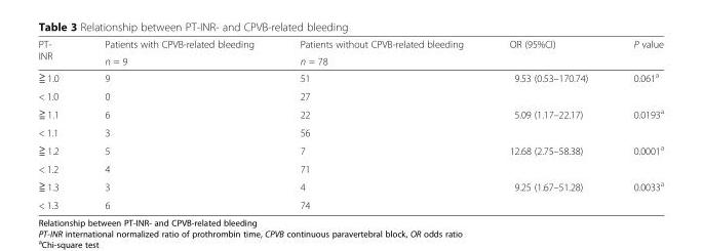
<table><thead><tr><td rowspan="2">PT- INR</td><td rowspan="2">Patients with CPVB-related bleeding n = 9</td><td rowspan="2">Patients without CPVB-related bleeding n = 78</td><td rowspan="2">OR (95%CI)</td><td rowspan="2">P value</td></tr><tr></tr></thead><tbody><tr><td>≧ 1.0</td><td>9</td><td>51</td><td rowspan="2">9.53 (0.53–170.74)</td><td rowspan="2">0.061<sup>a</sup></td></tr><tr><td>&lt; 1.0</td><td>0</td><td>27</td></tr><tr><td>≧ 1.1</td><td>6</td><td>22</td><td rowspan="2">5.09 (1.17–22.17)</td><td rowspan="2">0.0193<sup>a</sup></td></tr><tr><td>&lt; 1.1</td><td>3</td><td>56</td></tr><tr><td>≧ 1.2</td><td>5</td><td>7</td><td rowspan="2">12.68 (2.75–58.38)</td><td rowspan="2">0.0001<sup>a</sup></td></tr><tr><td>&lt; 1.2</td><td>4</td><td>71</td></tr><tr><td>≧ 1.3</td><td>3</td><td>4</td><td rowspan="2">9.25 (1.67–51.28)</td><td rowspan="2">0.0033<sup>a</sup></td></tr><tr><td>&lt; 1.3</td><td>6</td><td>74</td></tr></tbody></table>